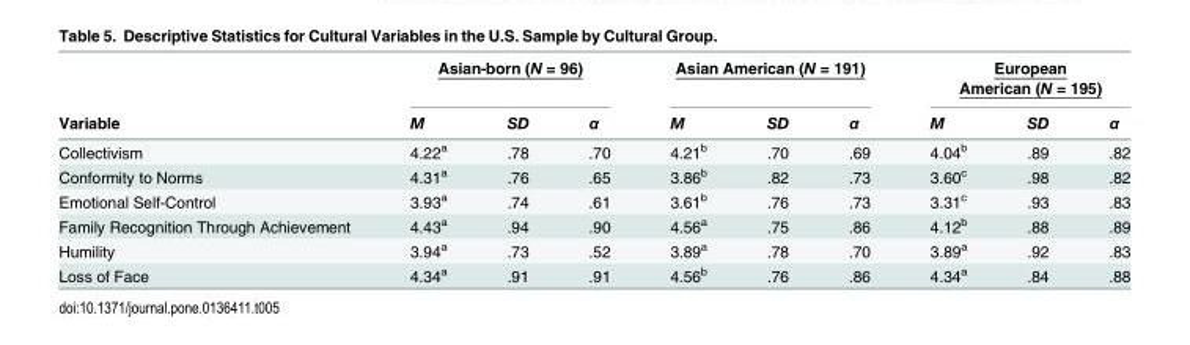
<table><thead><tr><td rowspan="3">Variable</td><td rowspan="2" colspan="3">Asian-born (N = 96)</td><td rowspan="2" colspan="3">Asian American (N = 191)</td><td rowspan="2" colspan="3">European American (N = 195)</td></tr><tr></tr><tr><td>M</td><td>SD</td><td>α</td><td>M</td><td>SD</td><td>α</td><td>M</td><td>SD</td><td>α</td></tr></thead><tbody><tr><td>Collectivism</td><td>4.22<sup>a</sup></td><td>.78</td><td>.70</td><td>4.21<sup>b</sup></td><td>.70</td><td>.69</td><td>4.04<sup>b</sup></td><td>.89</td><td>.82</td></tr><tr><td>Conformity to Norms</td><td>4.31<sup>a</sup></td><td>.76</td><td>.65</td><td>3.86<sup>b</sup></td><td>.82</td><td>.73</td><td>3.60<sup>c</sup></td><td>.98</td><td>.82</td></tr><tr><td>Emotional Self-Control</td><td>3.93<sup>a</sup></td><td>.74</td><td>.61</td><td>3.61<sup>b</sup></td><td>.76</td><td>.73</td><td>3.31<sup>c</sup></td><td>.93</td><td>.83</td></tr><tr><td>Family Recognition Through Achievement</td><td>4.43<sup>a</sup></td><td>.94</td><td>.90</td><td>4.56<sup>a</sup></td><td>.75</td><td>.86</td><td>4.12<sup>b</sup></td><td>.88</td><td>.89</td></tr><tr><td>Humility</td><td>3.94<sup>a</sup></td><td>.73</td><td>.52</td><td>3.89<sup>a</sup></td><td>.78</td><td>.70</td><td>3.89<sup>a</sup></td><td>.92</td><td>.83</td></tr><tr><td>Loss of Face</td><td>4.34<sup>a</sup></td><td>.91</td><td>.91</td><td>4.56<sup>b</sup></td><td>.76</td><td>.86</td><td>4.34<sup>a</sup></td><td>.84</td><td>.88</td></tr></tbody></table>